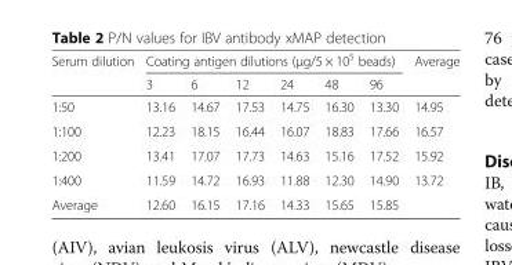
<table><thead><tr><td rowspan="2">Serum dilution</td><td colspan="6">Coating antigen dilutions (μg/5 × 10<sup>5</sup> beads)</td><td rowspan="2">Average</td></tr><tr><td>3</td><td>6</td><td>12</td><td>24</td><td>48</td><td>96</td></tr></thead><tbody><tr><td>1:50</td><td>13.16</td><td>14.67</td><td>17.53</td><td>14.75</td><td>16.30</td><td>13.30</td><td>14.95</td></tr><tr><td>1:100</td><td>12.23</td><td>18.15</td><td>16.44</td><td>16.07</td><td>18.83</td><td>17.66</td><td>16.57</td></tr><tr><td>1:200</td><td>13.41</td><td>17.07</td><td>17.73</td><td>14.63</td><td>15.16</td><td>17.52</td><td>15.92</td></tr><tr><td>1:400</td><td>11.59</td><td>14.72</td><td>16.93</td><td>11.88</td><td>12.30</td><td>14.90</td><td>13.72</td></tr><tr><td>Average</td><td>12.60</td><td>16.15</td><td>17.16</td><td>14.33</td><td>15.65</td><td>15.85</td><td></td></tr></tbody></table>